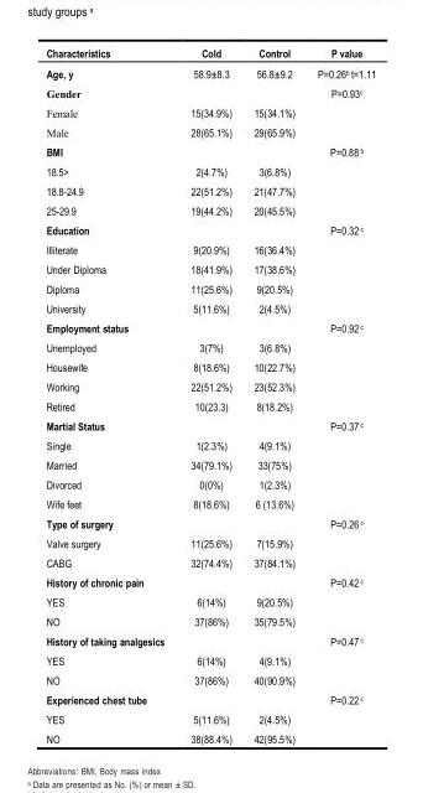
<table><thead><tr><td>Characteristics</td><td>Cold</td><td>Control</td><td>P value</td></tr></thead><tbody><tr><td>Age, y</td><td>58.9±8.3</td><td>56.8±9.2</td><td>P=0.26<sup>b</sup> t=1.11</td></tr><tr><td>redneG</td><td></td><td></td><td>P=0.93<sup>c</sup></td></tr><tr><td>eFameF</td><td>15(34.9%)</td><td>15(34.1%)</td><td></td></tr><tr><td>emeF</td><td>28(65.1%)</td><td>29(65.9%)</td><td></td></tr><tr><td>BMI</td><td></td><td></td><td>P=0.88 <sup>b</sup></td></tr><tr><td>18.5&gt;</td><td>2(4.7%)</td><td>3(6.8%)</td><td></td></tr><tr><td>18.8-24.9</td><td>22(51.2%)</td><td>21(47.7%)</td><td></td></tr><tr><td>25-29.9</td><td>19(44.2%)</td><td>20(45.5%)</td><td></td></tr><tr><td>Education</td><td></td><td></td><td>P=0.32 <sup>c</sup></td></tr><tr><td>Illiterate</td><td>9(20.9%)</td><td>16(36.4%)</td><td></td></tr><tr><td>Under Diploma</td><td>18(41.9%)</td><td>17(38.6%)</td><td></td></tr><tr><td>Diploma</td><td>11(25.6%)</td><td>9(20.5%)</td><td></td></tr><tr><td>University</td><td>5(11.6%)</td><td>2(4.5%)</td><td></td></tr><tr><td>Employment status</td><td></td><td></td><td>P=0.92 <sup>c</sup></td></tr><tr><td>Unemployed</td><td>3(7%)</td><td>3(6.8%)</td><td></td></tr><tr><td>Housewife</td><td>8(18.6%)</td><td>10(22.7%)</td><td></td></tr><tr><td>Working</td><td>22(51.2%)</td><td>23(52.3%)</td><td></td></tr><tr><td>Retired</td><td>10(23.3)</td><td>8(18.2%)</td><td></td></tr><tr><td>Martial Status</td><td></td><td></td><td>P=0.37 <sup>c</sup></td></tr><tr><td>Single</td><td>1(2.3%)</td><td>4(9.1%)</td><td></td></tr><tr><td>Married</td><td>34(79.1%)</td><td>33(75%)</td><td></td></tr><tr><td>Divorced</td><td>0(0%)</td><td>1(2.3%)</td><td></td></tr><tr><td>Wife feet</td><td>8(18.6%)</td><td>6 (13.6%)</td><td></td></tr><tr><td>Type of surgery</td><td></td><td></td><td>P=0.26 <sup>c</sup></td></tr><tr><td>Valve surgery</td><td>11(25.6%)</td><td>7(15.9%)</td><td></td></tr><tr><td>CABG</td><td>32(74.4%)</td><td>37(84.1%)</td><td></td></tr><tr><td>History of chronic pain</td><td></td><td></td><td>P=0.42 <sup>c</sup></td></tr><tr><td>YES</td><td>6(14%)</td><td>9(20.5%)</td><td></td></tr><tr><td>NO</td><td>37(86%)</td><td>35(79.5%)</td><td></td></tr><tr><td>History of taking analgesics</td><td></td><td></td><td>P=0.47 <sup>c</sup></td></tr><tr><td>YES</td><td>6(14%)</td><td>4(9.1%)</td><td></td></tr><tr><td>NO</td><td>37(86%)</td><td>40(90.9%)</td><td></td></tr><tr><td>Experienced chest tube</td><td></td><td></td><td>P=0.22 <sup>c</sup></td></tr><tr><td>YES</td><td>5(11.6%)</td><td>2(4.5%)</td><td></td></tr><tr><td>NO</td><td>38(88.4%)</td><td>42(95.5%)</td><td></td></tr></tbody></table>